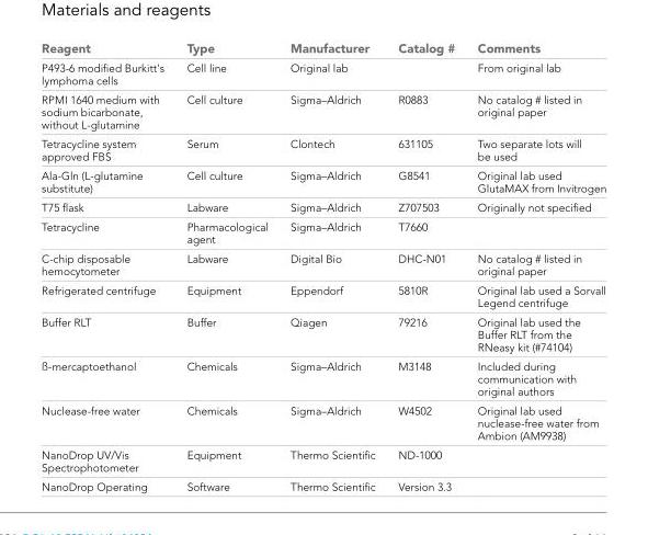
<table><thead><tr><td>Reagent</td><td>Type</td><td>Manufacturer</td><td>Catalog #</td><td>Comments</td></tr></thead><tbody><tr><td>P493-6 modified Burkitt&#x27;s lymphoma cells</td><td>Cell line</td><td>Original lab</td><td></td><td>From original lab</td></tr><tr><td>RPMI 1640 medium with sodium bicarbonate, without L-glutamine</td><td>Cell culture</td><td>Sigma–Aldrich</td><td>R0883</td><td>No catalog # listed in original paper</td></tr><tr><td>Tetracycline system approved FBS</td><td>Serum</td><td>Clontech</td><td>631105</td><td>Two separate lots will be used</td></tr><tr><td>Ala-Gln (L-glutamine substitute)</td><td>Cell culture</td><td>Sigma–Aldrich</td><td>G8541</td><td>Original lab used GlutaMAX from Invitrogen</td></tr><tr><td>T75 flask</td><td>Labware</td><td>Sigma–Aldrich</td><td>Z707503</td><td>Originally not specified</td></tr><tr><td>Tetracycline</td><td>Pharmacological agent</td><td>Sigma–Aldrich</td><td>T7660</td><td></td></tr><tr><td>C-chip disposable hemocytometer</td><td>Labware</td><td>Digital Bio</td><td>DHC-N01</td><td>No catalog # listed in original paper</td></tr><tr><td>Refrigerated centrifuge</td><td>Equipment</td><td>Eppendorf</td><td>5810R</td><td>Original lab used a Sorvall Legend centrifuge</td></tr><tr><td>Buffer RLT</td><td>Buffer</td><td>Qiagen</td><td>79216</td><td>Original lab used the Buffer RLT from the RNeasy kit (#74104)</td></tr><tr><td>ß-mercaptoethanol</td><td>Chemicals</td><td>Sigma–Aldrich</td><td>M3148</td><td>Included during communication with original authors</td></tr><tr><td>Nuclease-free water</td><td>Chemicals</td><td>Sigma–Aldrich</td><td>W4502</td><td>Original lab used nuclease-free water from Ambion (AM9938)</td></tr><tr><td>NanoDrop UV/Vis Spectrophotometer</td><td>Equipment</td><td>Thermo Scientific</td><td>ND-1000</td><td></td></tr><tr><td>NanoDrop Operating</td><td>Software</td><td>Thermo Scientific</td><td>Version 3.3</td><td></td></tr></tbody></table>